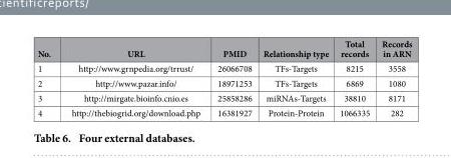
<table><thead><tr><td>No.</td><td>URL</td><td>PMID</td><td>Relationship type</td><td>Total records</td><td>Records in ARN</td></tr></thead><tbody><tr><td>1</td><td>http://www.grnpedia.org/trrust/</td><td>26066708</td><td>TFs-Targets</td><td>8215</td><td>3558</td></tr><tr><td>2</td><td>http://www.pazar.info/</td><td>18971253</td><td>TFs-Targets</td><td>6869</td><td>1080</td></tr><tr><td>3</td><td>http://mirgate.bioinfo.cnio.es</td><td>25858286</td><td>miRNAs-Targets</td><td>38810</td><td>8171</td></tr><tr><td>4</td><td>http://thebiogrid.org/download.php</td><td>16381927</td><td>Protein-Protein</td><td>1066335</td><td>282</td></tr></tbody></table>